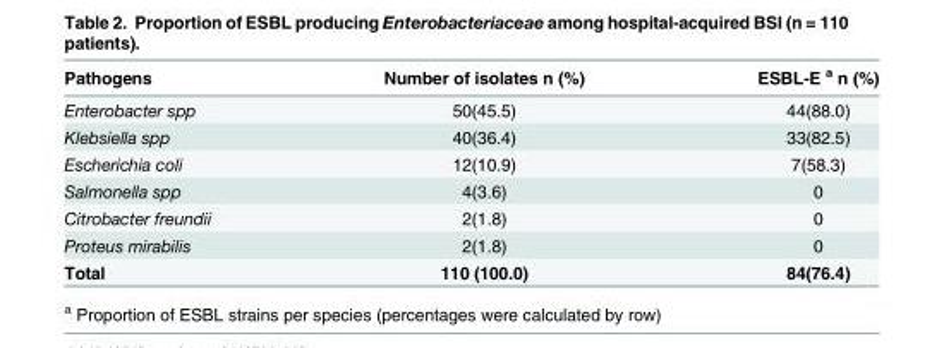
<table><thead><tr><td>Pathogens</td><td>Number of isolates n (%)</td><td>ESBL-E <sup>a</sup> n (%)</td></tr></thead><tbody><tr><td>Enterobacter spp</td><td>50(45.5)</td><td>44(88.0)</td></tr><tr><td>Klebsiella spp</td><td>40(36.4)</td><td>33(82.5)</td></tr><tr><td>Escherichia coli</td><td>12(10.9)</td><td>7(58.3)</td></tr><tr><td>Salmonella spp</td><td>4(3.6)</td><td>0</td></tr><tr><td>Citrobacter freundii</td><td>2(1.8)</td><td>0</td></tr><tr><td>Proteus mirabilis</td><td>2(1.8)</td><td>0</td></tr><tr><td>Total</td><td>110 (100.0)</td><td>84(76.4)</td></tr></tbody></table>